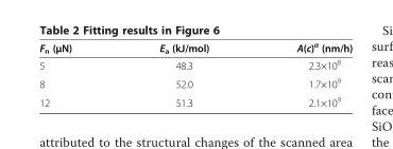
<table><thead><tr><td>F<sub>n</sub> (μN)</td><td>E<sub>a</sub> (kJ/mol)</td><td>A(c)<sup>α</sup> (nm/h)</td></tr></thead><tbody><tr><td>5</td><td>48.3</td><td>2.3×10<sup>8</sup></td></tr><tr><td>8</td><td>52.0</td><td>1.7×10<sup>9</sup></td></tr><tr><td>12</td><td>51.3</td><td>2.1×10<sup>9</sup></td></tr></tbody></table>